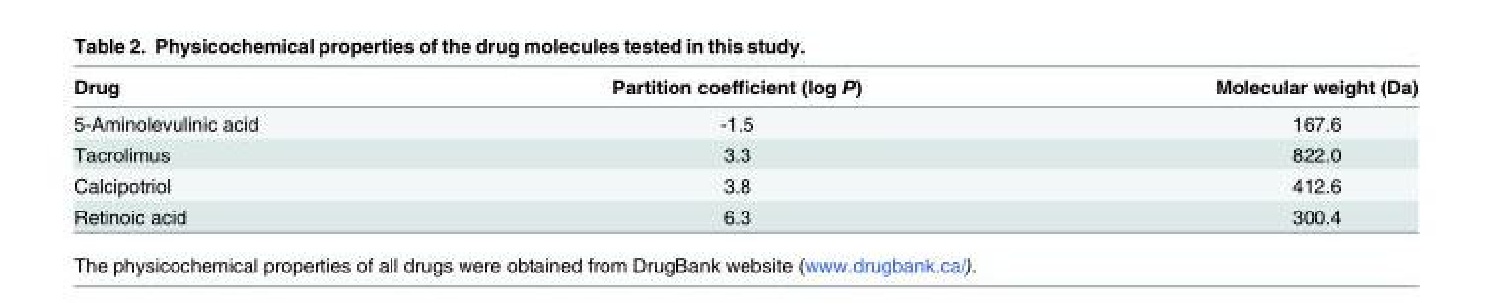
<table><thead><tr><td>Drug</td><td>Partition coefficient (log P)</td><td>Molecular weight (Da)</td></tr></thead><tbody><tr><td>5-Aminolevulinic acid</td><td>-1.5</td><td>167.6</td></tr><tr><td>Tacrolimus</td><td>3.3</td><td>822.0</td></tr><tr><td>Calcipotriol</td><td>3.8</td><td>412.6</td></tr><tr><td>Retinoic acid</td><td>6.3</td><td>300.4</td></tr></tbody></table>